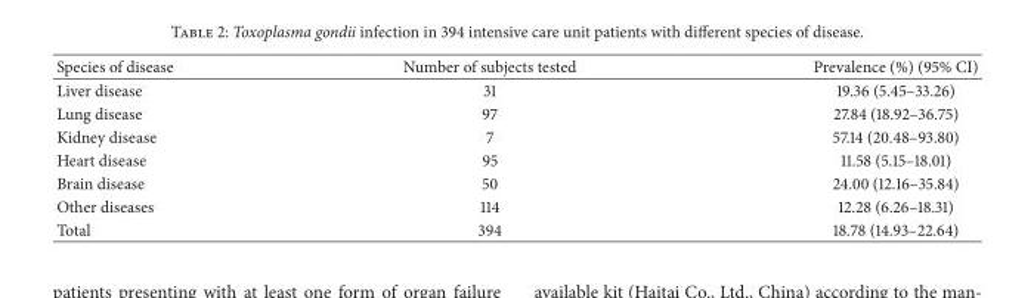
<table><thead><tr><td>Species of disease</td><td>Number of subjects tested</td><td>Prevalence (%) (95% CI)</td></tr></thead><tbody><tr><td>Liver disease</td><td>31</td><td>19.36 (5.45–33.26)</td></tr><tr><td>Lung disease</td><td>97</td><td>27.84 (18.92–36.75)</td></tr><tr><td>Kidney disease</td><td>7</td><td>57.14 (20.48–93.80)</td></tr><tr><td>Heart disease</td><td>95</td><td>11.58 (5.15–18.01)</td></tr><tr><td>Brain disease</td><td>50</td><td>24.00 (12.16–35.84)</td></tr><tr><td>Other diseases</td><td>114</td><td>12.28 (6.26–18.31)</td></tr><tr><td>Total</td><td>394</td><td>18.78 (14.93–22.64)</td></tr></tbody></table>